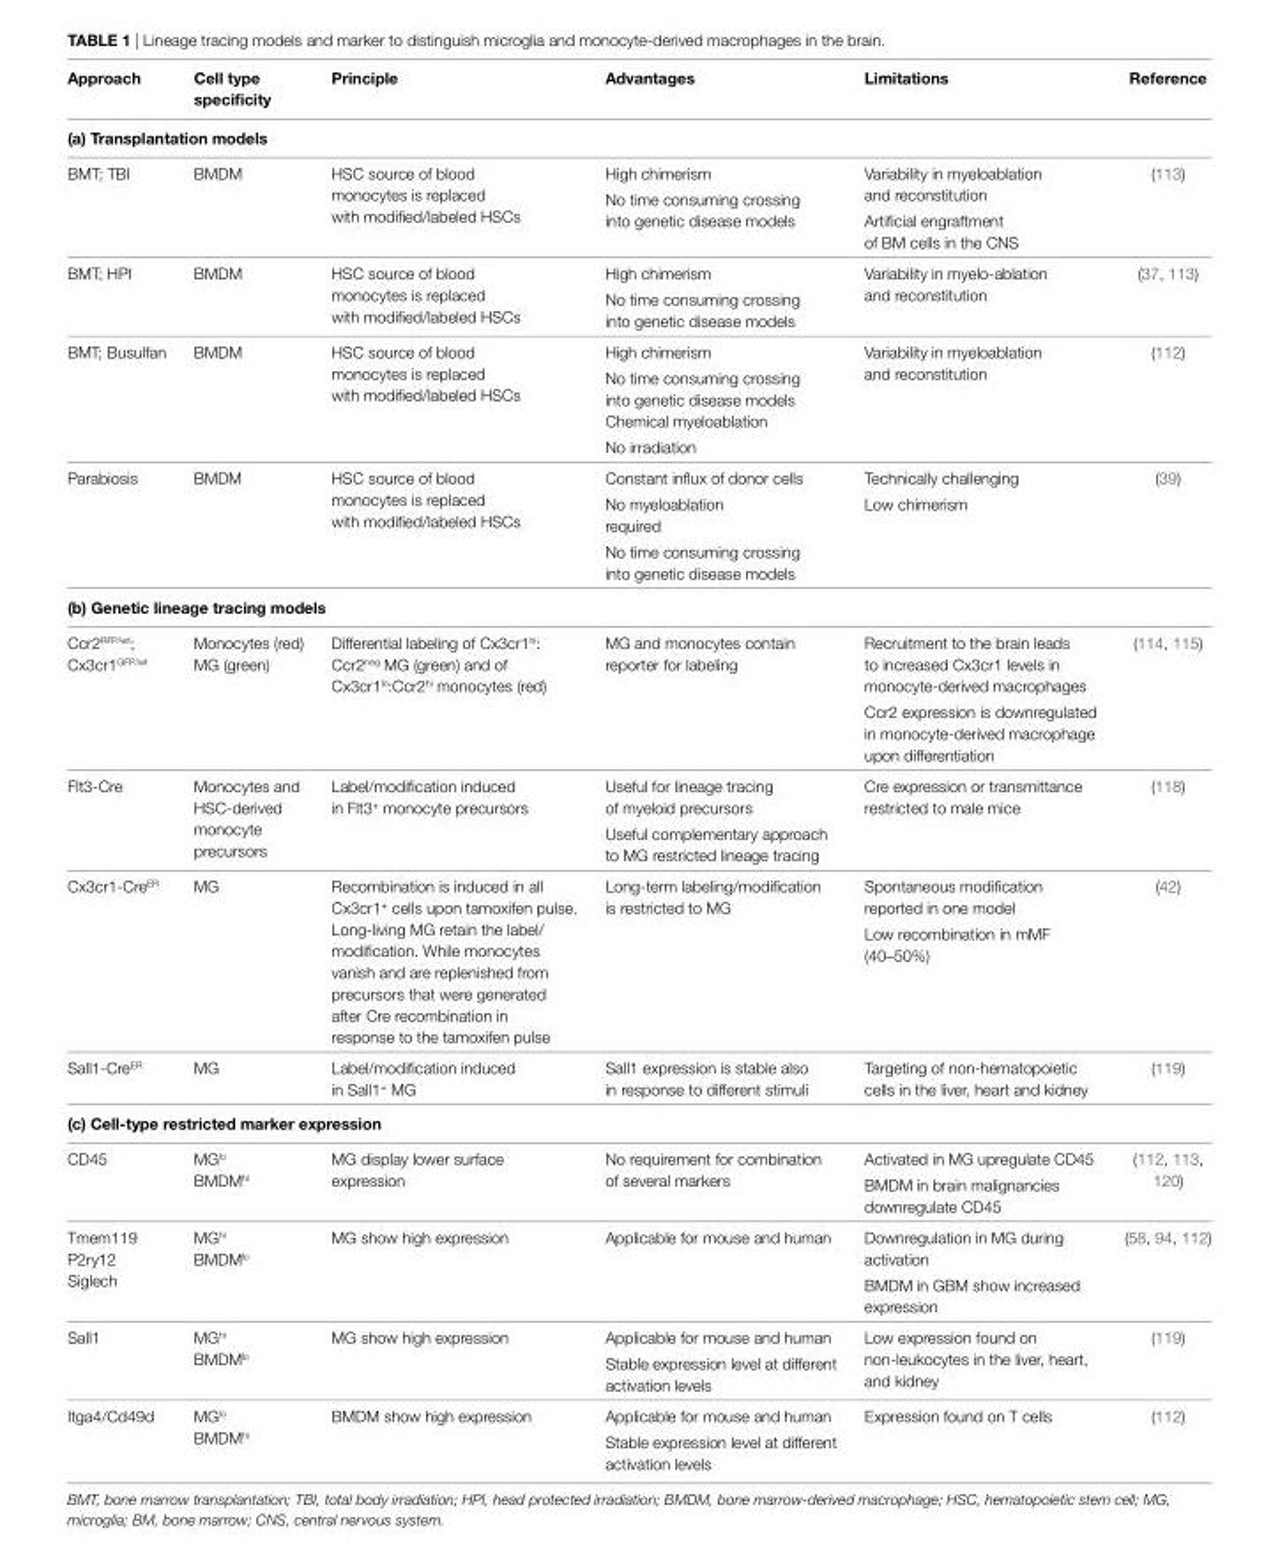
<table><thead><tr><td>Approach</td><td>Cell type specificity</td><td>Principle</td><td>Advantages</td><td>Limitations</td><td>Reference</td></tr></thead><tbody><tr><td colspan="6">(a) Transplantation models</td></tr><tr><td>BMT; TBI</td><td>BMDM</td><td>HSC source of blood monocytes is replaced with modified/labeled HSCs</td><td>High chimerism No time consuming crossing into genetic disease models</td><td>Variability in myeloablation and reconstitution Artificial engraftment of BM cells in the CNS</td><td>(113)</td></tr><tr><td>BMT; HPI</td><td>BMDM</td><td>HSC source of blood monocytes is replaced with modified/labeled HSCs</td><td>High chimerism No time consuming crossing into genetic disease models</td><td>Variability in myelo-ablation and reconstitution</td><td>(37, 113)</td></tr><tr><td>BMT; Busulfan</td><td>BMDM</td><td>HSC source of blood monocytes is replaced with modified/labeled HSCs</td><td>High chimerism No time consuming crossing into genetic disease models Chemical myeloablation No irradiation</td><td>Variability in myeloablation and reconstitution</td><td>(112)</td></tr><tr><td>Parabiosis</td><td>BMDM</td><td>HSC source of blood monocytes is replaced with modified/labeled HSCs</td><td>Constant influx of donor cells No myeloablation required No time consuming crossing into genetic disease models</td><td>Technically challenging Low chimerism</td><td>(39)</td></tr><tr><td colspan="6">(b) Genetic lineage tracing models</td></tr><tr><td>Ccr2<sup>RFP/wt</sup>; Cx3cr1<sup>GFP/wt</sup></td><td>Monocytes (red) MG (green)</td><td>Differential labeling of Cx3cr1<sup>hi</sup>: Ccr2<sup>neg</sup> MG (green) and of Cx3cr1<sup>lo</sup>:Ccr2<sup>hi</sup> monocytes (red)</td><td>MG and monocytes contain reporter for labeling</td><td>Recruitment to the brain leads to increased Cx3cr1 levels in monocyte-derived macrophages Ccr2 expression is downregulated in monocyte-derived macrophage upon differentiation</td><td>(114, 115)</td></tr><tr><td>Flt3-Cre</td><td>Monocytes and HSC-derived monocyte precursors</td><td>Label/modification induced in Flt3<sup>+</sup> monocyte precursors</td><td>Useful for lineage tracing of myeloid precursors Useful complementary approach to MG restricted lineage tracing</td><td>Cre expression or transmittance restricted to male mice</td><td>(118)</td></tr><tr><td>Cx3cr1-Cre<sup>ER</sup></td><td>MG</td><td>Recombination is induced in all Cx3cr1<sup>+</sup> cells upon tamoxifen pulse. Long-living MG retain the label/ modification. While monocytes vanish and are replenished from precursors that were generated after Cre recombination in response to the tamoxifen pulse</td><td>Long-term labeling/modification is restricted to MG</td><td>Spontaneous modification reported in one model Low recombination in mMF (40–50%)</td><td>(42)</td></tr><tr><td>Sall1-Cre<sup>ER</sup></td><td>MG</td><td>Label/modification induced in Sall1<sup>+</sup> MG</td><td>Sall1 expression is stable also in response to different stimuli</td><td>Targeting of non-hematopoietic cells in the liver, heart and kidney</td><td>(119)</td></tr><tr><td colspan="6">(c) Cell-type restricted marker expression</td></tr><tr><td>CD45</td><td>MG<sup>lo</sup> BMDM<sup>hi</sup></td><td>MG display lower surface expression</td><td>No requirement for combination of several markers</td><td>Activated in MG upregulate CD45 BMDM in brain malignancies downregulate CD45</td><td>(112, 113, 120)</td></tr><tr><td>Tmem119 P2ry12 Siglech</td><td>MG<sup>hi</sup> BMDM<sup>lo</sup></td><td>MG show high expression</td><td>Applicable for mouse and human</td><td>Downregulation in MG during activation BMDM in GBM show increased expression</td><td>(58, 94, 112)</td></tr><tr><td>Sall1</td><td>MG<sup>hi</sup> BMDM<sup>lo</sup></td><td>MG show high expression</td><td>Applicable for mouse and human Stable expression level at different activation levels</td><td>Low expression found on non-leukocytes in the liver, heart, and kidney</td><td>(119)</td></tr><tr><td>Itga4/Cd49d</td><td>MG<sup>lo</sup> BMDM<sup>hi</sup></td><td>BMDM show high expression</td><td>Applicable for mouse and human Stable expression level at different activation levels</td><td>Expression found on T cells</td><td>(112)</td></tr></tbody></table>